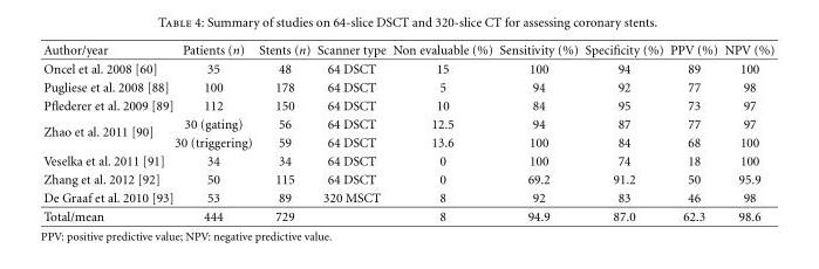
<table><thead><tr><td>Author/year</td><td>Patients (n)</td><td>Stents (n)</td><td>Scanner type</td><td>Non evaluable (%)</td><td>Sensitivity (%)</td><td>Specificity (%)</td><td>PPV (%)</td><td>NPV (%)</td></tr></thead><tbody><tr><td>Oncel et al. 2008 [60]</td><td>35</td><td>48</td><td>64 DSCT</td><td>15</td><td>100</td><td>94</td><td>89</td><td>100</td></tr><tr><td>Pugliese et al. 2008 [88]</td><td>100</td><td>178</td><td>64 DSCT</td><td>5</td><td>94</td><td>92</td><td>77</td><td>98</td></tr><tr><td>Pflederer et al. 2009 [89]</td><td>112</td><td>150</td><td>64 DSCT</td><td>10</td><td>84</td><td>95</td><td>73</td><td>97</td></tr><tr><td rowspan="2">Zhao et al. 2011 [90]</td><td>30 (gating)</td><td>56</td><td>64 DSCT</td><td>12.5</td><td>94</td><td>87</td><td>77</td><td>97</td></tr><tr><td>30 (triggering)</td><td>59</td><td>64 DSCT</td><td>13.6</td><td>100</td><td>84</td><td>68</td><td>100</td></tr><tr><td>Veselka et al. 2011 [91]</td><td>34</td><td>34</td><td>64 DSCT</td><td>0</td><td>100</td><td>74</td><td>18</td><td>100</td></tr><tr><td>Zhang et al. 2012 [92]</td><td>50</td><td>115</td><td>64 DSCT</td><td>0</td><td>69.2</td><td>91.2</td><td>50</td><td>95.9</td></tr><tr><td>De Graaf et al. 2010 [93]</td><td>53</td><td>89</td><td>320 MSCT</td><td>8</td><td>92</td><td>83</td><td>46</td><td>98</td></tr><tr><td>Total/mean</td><td>444</td><td>729</td><td></td><td>8</td><td>94.9</td><td>87.0</td><td>62.3</td><td>98.6</td></tr></tbody></table>